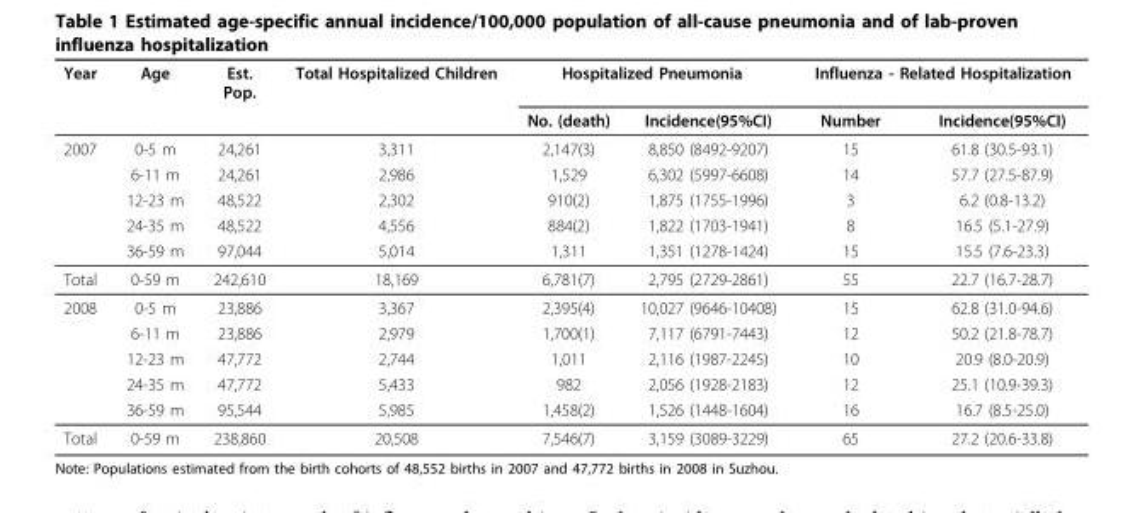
<table><thead><tr><td rowspan="2">Year</td><td rowspan="2">Age</td><td rowspan="2">Est. Pop.</td><td rowspan="2">Total Hospitalized Children</td><td colspan="2">Hospitalized Pneumonia</td><td colspan="2">Influenza - Related Hospitalization</td></tr><tr><td>No. (death)</td><td>Incidence(95%CI)</td><td>Number</td><td>Incidence(95%CI)</td></tr></thead><tbody><tr><td rowspan="5">2007</td><td>0-5 m</td><td>24,261</td><td>3,311</td><td>2,147(3)</td><td>8,850 (8492-9207)</td><td>15</td><td>61.8 (30.5-93.1)</td></tr><tr><td>6-11 m</td><td>24,261</td><td>2,986</td><td>1,529</td><td>6,302 (5997-6608)</td><td>14</td><td>57.7 (27.5-87.9)</td></tr><tr><td>12-23 m</td><td>48,522</td><td>2,302</td><td>910(2)</td><td>1,875 (1755-1996)</td><td>3</td><td>6.2 (0.8-13.2)</td></tr><tr><td>24-35 m</td><td>48,522</td><td>4,556</td><td>884(2)</td><td>1,822 (1703-1941)</td><td>8</td><td>16.5 (5.1-27.9)</td></tr><tr><td>36-59 m</td><td>97,044</td><td>5,014</td><td>1,311</td><td>1,351 (1278-1424)</td><td>15</td><td>15.5 (7.6-23.3)</td></tr><tr><td>Total</td><td>0-59 m</td><td>242,610</td><td>18,169</td><td>6,781(7)</td><td>2,795 (2729-2861)</td><td>55</td><td>22.7 (16.7-28.7)</td></tr><tr><td rowspan="5">2008</td><td>0-5 m</td><td>23,886</td><td>3,367</td><td>2,395(4)</td><td>10,027 (9646-10408)</td><td>15</td><td>62.8 (31.0-94.6)</td></tr><tr><td>6-11 m</td><td>23,886</td><td>2,979</td><td>1,700(1)</td><td>7,117 (6791-7443)</td><td>12</td><td>50.2 (21.8-78.7)</td></tr><tr><td>12-23 m</td><td>47,772</td><td>2,744</td><td>1,011</td><td>2,116 (1987-2245)</td><td>10</td><td>20.9 (8.0-20.9)</td></tr><tr><td>24-35 m</td><td>47,772</td><td>5,433</td><td>982</td><td>2,056 (1928-2183)</td><td>12</td><td>25.1 (10.9-39.3)</td></tr><tr><td>36-59 m</td><td>95,544</td><td>5,985</td><td>1,458(2)</td><td>1,526 (1448-1604)</td><td>16</td><td>16.7 (8.5-25.0)</td></tr><tr><td>Total</td><td>0-59 m</td><td>238,860</td><td>20,508</td><td>7,546(7)</td><td>3,159 (3089-3229)</td><td>65</td><td>27.2 (20.6-33.8)</td></tr></tbody></table>